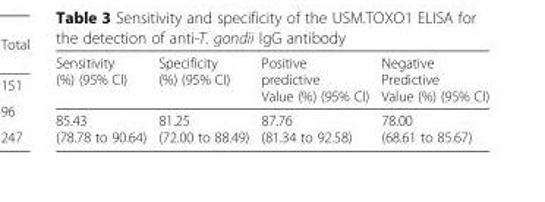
<table><thead><tr><td>Sensitivity (%) (95% CI)</td><td>Specificity (%) (95% CI)</td><td>Positive predictive Value (%) (95% CI)</td><td>Negative Predictive Value (%) (95% CI)</td></tr></thead><tbody><tr><td>85.43 (78.78 to 90.64)</td><td>81.25 (72.00 to 88.49)</td><td>87.76 (81.34 to 92.58)</td><td>78.00 (68.61 to 85.67)</td></tr></tbody></table>